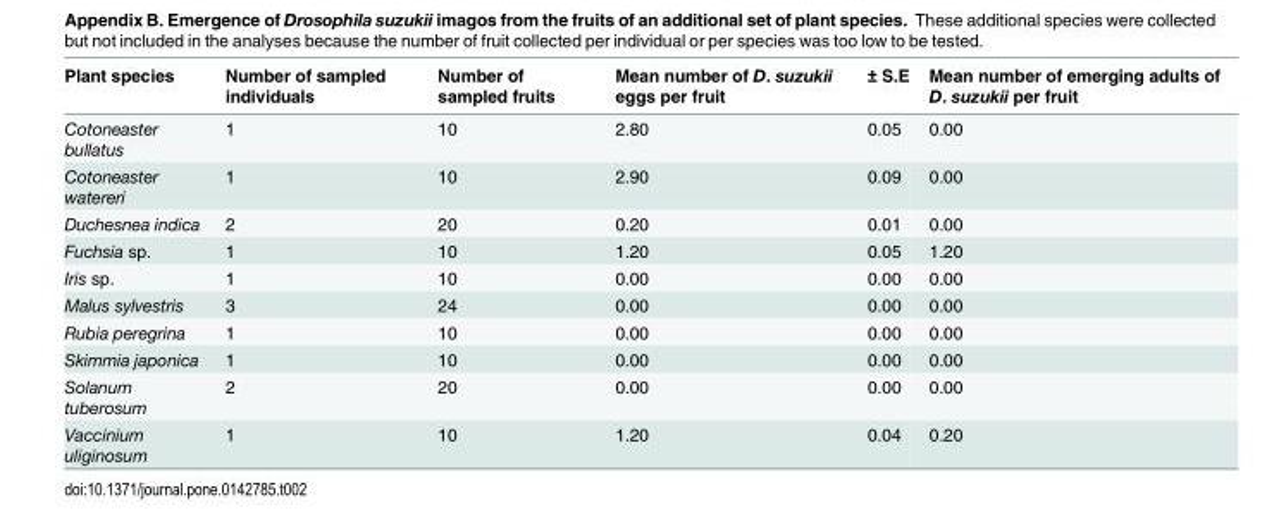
<table><thead><tr><td>Plant species</td><td>Number of sampled individuals</td><td>Number of sampled fruits</td><td>Mean number of D. suzukii eggs per fruit</td><td>± S.E</td><td>Mean number of emerging adults of D. suzukii per fruit</td></tr></thead><tbody><tr><td>Cotoneaster bullatus</td><td>1</td><td>10</td><td>2.80</td><td>0.05</td><td>0.00</td></tr><tr><td>Cotoneaster watereri</td><td>1</td><td>10</td><td>2.90</td><td>0.09</td><td>0.00</td></tr><tr><td>Duchesnea indica</td><td>2</td><td>20</td><td>0.20</td><td>0.01</td><td>0.00</td></tr><tr><td>Fuchsia sp.</td><td>1</td><td>10</td><td>1.20</td><td>0.05</td><td>1.20</td></tr><tr><td>Iris sp.</td><td>1</td><td>10</td><td>0.00</td><td>0.00</td><td>0.00</td></tr><tr><td>Malus sylvestris</td><td>3</td><td>24</td><td>0.00</td><td>0.00</td><td>0.00</td></tr><tr><td>Rubia peregrina</td><td>1</td><td>10</td><td>0.00</td><td>0.00</td><td>0.00</td></tr><tr><td>Skimmia japonica</td><td>1</td><td>10</td><td>0.00</td><td>0.00</td><td>0.00</td></tr><tr><td>Solanum tuberosum</td><td>2</td><td>20</td><td>0.00</td><td>0.00</td><td>0.00</td></tr><tr><td>Vaccinium uliginosum</td><td>1</td><td>10</td><td>1.20</td><td>0.04</td><td>0.20</td></tr></tbody></table>